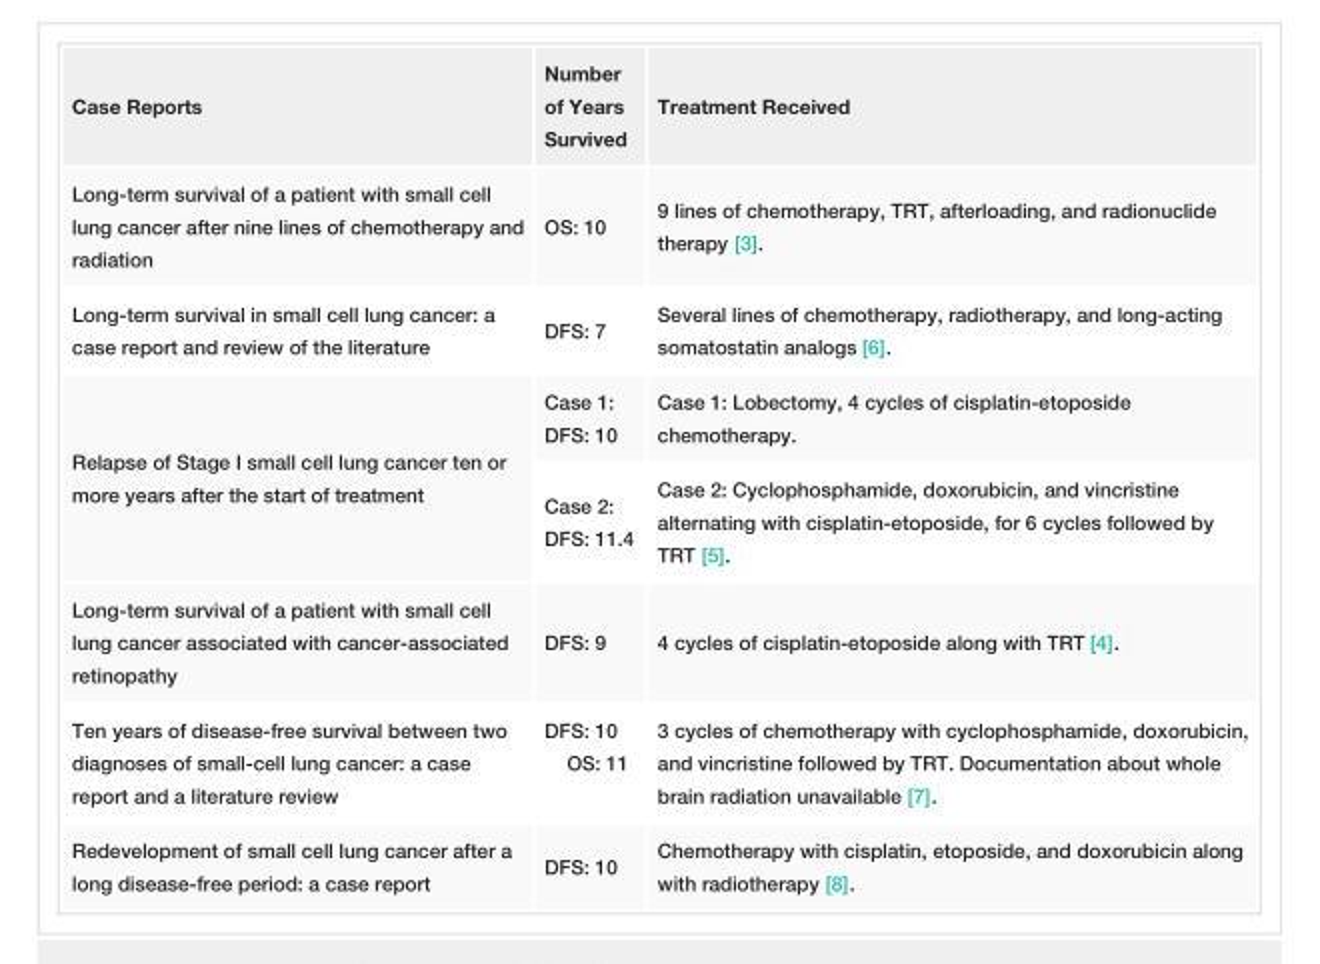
<table><tbody><tr><td>Case Reports</td><td>Number of Years Survived</td><td>Treatment Received</td></tr><tr><td>Long-term survival of a patient with small cell lung cancer after nine lines of chemotherapy and radiation</td><td>OS: 10</td><td>9 lines of chemotherapy, TRT, afterloading, and radionuclide therapy [3].</td></tr><tr><td>Long-term survival in small cell lung cancer: a case report and review of the literature</td><td>DFS: 7</td><td>Several lines of chemotherapy, radiotherapy, and long-acting somatostatin analogs [6].</td></tr><tr><td rowspan="2">Relapse of Stage I small cell lung cancer ten or more years after the start of treatment</td><td>Case 1: DFS: 10</td><td>Case 1: Lobectomy, 4 cycles of cisplatin-etoposide chemotherapy.</td></tr><tr><td>Case 2: DFS: 11.4</td><td>Case 2: Cyclophosphamide, doxorubicin, and vincristine alternating with cisplatin-etoposide, for 6 cycles followed by TRT [5].</td></tr><tr><td>Long-term survival of a patient with small cell lung cancer associated with cancer-associated retinopathy</td><td>DFS: 9</td><td>4 cycles of cisplatin-etoposide along with TRT [4].</td></tr><tr><td>Ten years of disease-free survival between two diagnoses of small-cell lung cancer: a case report and a literature review</td><td>DFS: 10 OS: 11</td><td>3 cycles of chemotherapy with cyclophosphamide, doxorubicin, and vincristine followed by TRT. Documentation about whole brain radiation unavailable [7].</td></tr><tr><td>Redevelopment of small cell lung cancer after a long disease-free period: a case report</td><td>DFS: 10</td><td>Chemotherapy with cisplatin, etoposide, and doxorubicin along with radiotherapy [8].</td></tr></tbody></table>